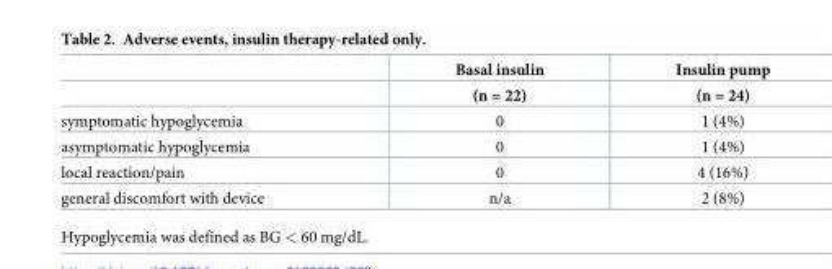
<table><thead><tr><td rowspan="2"></td><td rowspan="2">Basal insulin (n = 22)</td><td rowspan="2">Insulin pump (n = 24)</td></tr><tr></tr></thead><tbody><tr><td>symptomatic hypoglycemia</td><td>0</td><td>1 (4%)</td></tr><tr><td>asymptomatic hypoglycemia</td><td>0</td><td>1 (4%)</td></tr><tr><td>local reaction/pain</td><td>0</td><td>4 (16%)</td></tr><tr><td>general discomfort with device</td><td>n/a</td><td>2 (8%)</td></tr></tbody></table>